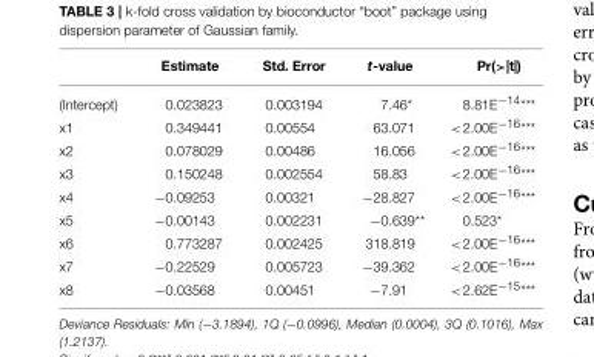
<table><thead><tr><td></td><td>Estimate</td><td>Std. Error</td><td>t-value</td><td>Pr(&gt;|t|)</td></tr></thead><tbody><tr><td>(Intercept)</td><td>0.023823</td><td>0.003194</td><td>7.46*</td><td>8.81E<sup>−14***</sup></td></tr><tr><td>x1</td><td>0.349441</td><td>0.00554</td><td>63.071</td><td>&lt;2.00E<sup>−16***</sup></td></tr><tr><td>x2</td><td>0.078029</td><td>0.00486</td><td>16.056</td><td>&lt;2.00E<sup>−16***</sup></td></tr><tr><td>x3</td><td>0.150248</td><td>0.002554</td><td>58.83</td><td>&lt;2.00E<sup>−16***</sup></td></tr><tr><td>x4</td><td>−0.09253</td><td>0.00321</td><td>−28.827</td><td>&lt;2.00E<sup>−16***</sup></td></tr><tr><td>x5</td><td>−0.00143</td><td>0.002231</td><td>−0.639**</td><td>0.523*</td></tr><tr><td>x6</td><td>0.773287</td><td>0.002425</td><td>318.819</td><td>&lt;2.00E<sup>−16***</sup></td></tr><tr><td>x7</td><td>−0.22529</td><td>0.005723</td><td>−39.362</td><td>&lt;2.00E<sup>−16***</sup></td></tr><tr><td>x8</td><td>−0.03568</td><td>0.00451</td><td>−7.91</td><td>&lt;2.62E<sup>−15***</sup></td></tr></tbody></table>